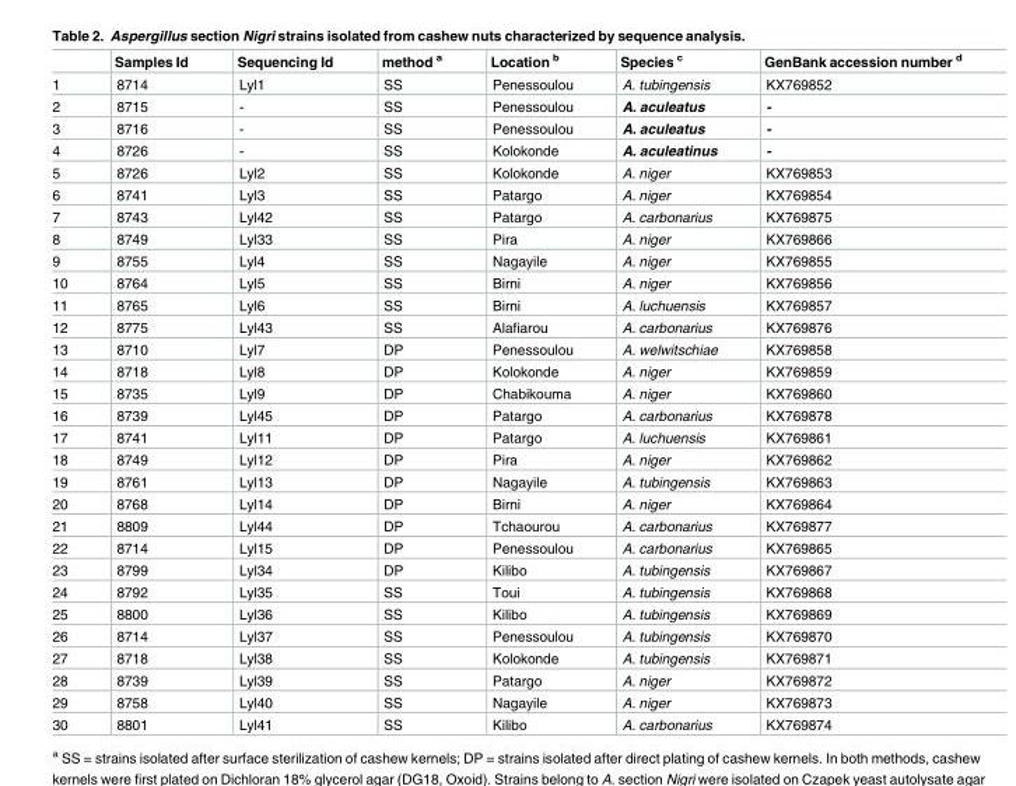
<table><thead><tr><td></td><td>Samples Id</td><td>Sequencing Id</td><td>method <sup>a</sup></td><td>Location <sup>b</sup></td><td>Species <sup>c</sup></td><td>GenBank accession number <sup>d</sup></td></tr></thead><tbody><tr><td>1</td><td>8714</td><td>Lyl1</td><td>SS</td><td>Penessoulou</td><td>A. tubingensis</td><td>KX769852</td></tr><tr><td>2</td><td>8715</td><td>-</td><td>SS</td><td>Penessoulou</td><td>A. aculeatus</td><td>-</td></tr><tr><td>3</td><td>8716</td><td>-</td><td>SS</td><td>Penessoulou</td><td>A. aculeatus</td><td>-</td></tr><tr><td>4</td><td>8726</td><td>-</td><td>SS</td><td>Kolokonde</td><td>A. aculeatinus</td><td>-</td></tr><tr><td>5</td><td>8726</td><td>Lyl2</td><td>SS</td><td>Kolokonde</td><td>A. niger</td><td>KX769853</td></tr><tr><td>6</td><td>8741</td><td>Lyl3</td><td>SS</td><td>Patargo</td><td>A. niger</td><td>KX769854</td></tr><tr><td>7</td><td>8743</td><td>Lyl42</td><td>SS</td><td>Patargo</td><td>A. carbonarius</td><td>KX769875</td></tr><tr><td>8</td><td>8749</td><td>Lyl33</td><td>SS</td><td>Pira</td><td>A. niger</td><td>KX769866</td></tr><tr><td>9</td><td>8755</td><td>Lyl4</td><td>SS</td><td>Nagayile</td><td>A. niger</td><td>KX769855</td></tr><tr><td>10</td><td>8764</td><td>Lyl5</td><td>SS</td><td>Birni</td><td>A. niger</td><td>KX769856</td></tr><tr><td>11</td><td>8765</td><td>Lyl6</td><td>SS</td><td>Birni</td><td>A. luchuensis</td><td>KX769857</td></tr><tr><td>12</td><td>8775</td><td>Lyl43</td><td>SS</td><td>Alafiarou</td><td>A. carbonarius</td><td>KX769876</td></tr><tr><td>13</td><td>8710</td><td>Lyl7</td><td>DP</td><td>Penessoulou</td><td>A. welwitschiae</td><td>KX769858</td></tr><tr><td>14</td><td>8718</td><td>Lyl8</td><td>DP</td><td>Kolokonde</td><td>A. niger</td><td>KX769859</td></tr><tr><td>15</td><td>8735</td><td>Lyl9</td><td>DP</td><td>Chabikouma</td><td>A. niger</td><td>KX769860</td></tr><tr><td>16</td><td>8739</td><td>Lyl45</td><td>DP</td><td>Patargo</td><td>A. carbonarius</td><td>KX769878</td></tr><tr><td>17</td><td>8741</td><td>Lyl11</td><td>DP</td><td>Patargo</td><td>A. luchuensis</td><td>KX769861</td></tr><tr><td>18</td><td>8749</td><td>Lyl12</td><td>DP</td><td>Pira</td><td>A. niger</td><td>KX769862</td></tr><tr><td>19</td><td>8761</td><td>Lyl13</td><td>DP</td><td>Nagayile</td><td>A. tubingensis</td><td>KX769863</td></tr><tr><td>20</td><td>8768</td><td>Lyl14</td><td>DP</td><td>Birni</td><td>A. niger</td><td>KX769864</td></tr><tr><td>21</td><td>8809</td><td>Lyl44</td><td>DP</td><td>Tchaourou</td><td>A. carbonarius</td><td>KX769877</td></tr><tr><td>22</td><td>8714</td><td>Lyl15</td><td>DP</td><td>Penessoulou</td><td>A. carbonarius</td><td>KX769865</td></tr><tr><td>23</td><td>8799</td><td>Lyl34</td><td>DP</td><td>Kilibo</td><td>A. tubingensis</td><td>KX769867</td></tr><tr><td>24</td><td>8792</td><td>Lyl35</td><td>SS</td><td>Toui</td><td>A. tubingensis</td><td>KX769868</td></tr><tr><td>25</td><td>8800</td><td>Lyl36</td><td>SS</td><td>Kilibo</td><td>A. tubingensis</td><td>KX769869</td></tr><tr><td>26</td><td>8714</td><td>Lyl37</td><td>SS</td><td>Penessoulou</td><td>A. tubingensis</td><td>KX769870</td></tr><tr><td>27</td><td>8718</td><td>Lyl38</td><td>SS</td><td>Kolokonde</td><td>A. tubingensis</td><td>KX769871</td></tr><tr><td>28</td><td>8739</td><td>Lyl39</td><td>SS</td><td>Patargo</td><td>A. niger</td><td>KX769872</td></tr><tr><td>29</td><td>8758</td><td>Lyl40</td><td>SS</td><td>Nagayile</td><td>A. niger</td><td>KX769873</td></tr><tr><td>30</td><td>8801</td><td>Lyl41</td><td>SS</td><td>Kilibo</td><td>A. carbonarius</td><td>KX769874</td></tr></tbody></table>